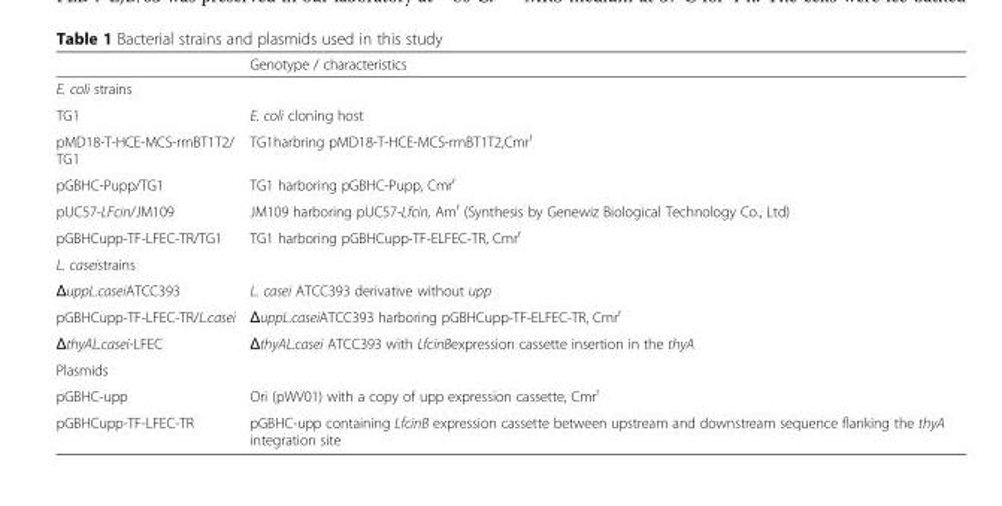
<table><thead><tr><td></td><td>Genotype / characteristics</td></tr></thead><tbody><tr><td colspan="2">E. coli strains</td></tr><tr><td>TG1</td><td>E. coli cloning host</td></tr><tr><td>pMD18-T-HCE-MCS-rrnBT1T2/ TG1</td><td>TG1harbring pMD18-T-HCE-MCS-rrnBT1T2,Cmr<sup>r</sup></td></tr><tr><td>pGBHC-Pupp/TG1</td><td>TG1 harboring pGBHC-Pupp, Cmr<sup>r</sup></td></tr><tr><td>pUC57-LFcin/JM109</td><td>JM109 harboring pUC57-Lfcin, Am<sup>r</sup> (Synthesis by Genewiz Biological Technology Co., Ltd)</td></tr><tr><td>pGBHCupp-TF-LFEC-TR/TG1</td><td>TG1 harboring pGBHCupp-TF-ELFEC-TR, Cmr<sup>r</sup></td></tr><tr><td colspan="2">L. caseistrains</td></tr><tr><td>ΔuppL.caseiATCC393</td><td>L. casei ATCC393 derivative without upp</td></tr><tr><td>pGBHCupp-TF-LFEC-TR/L.casei</td><td>ΔuppL.caseiATCC393 harboring pGBHCupp-TF-ELFEC-TR, Cmr<sup>r</sup></td></tr><tr><td>ΔthyAL.casei-LFEC</td><td>ΔthyAL.casei ATCC393 with LfcinBexpression cassette insertion in the thyA</td></tr><tr><td colspan="2">Plasmids</td></tr><tr><td>pGBHC-upp</td><td>Ori (pWV01) with a copy of upp expression cassette, Cmr<sup>r</sup></td></tr><tr><td>pGBHCupp-TF-LFEC-TR</td><td>pGBHC-upp containing LfcinB expression cassette between upstream and downstream sequence flanking the thyA integration site</td></tr></tbody></table>